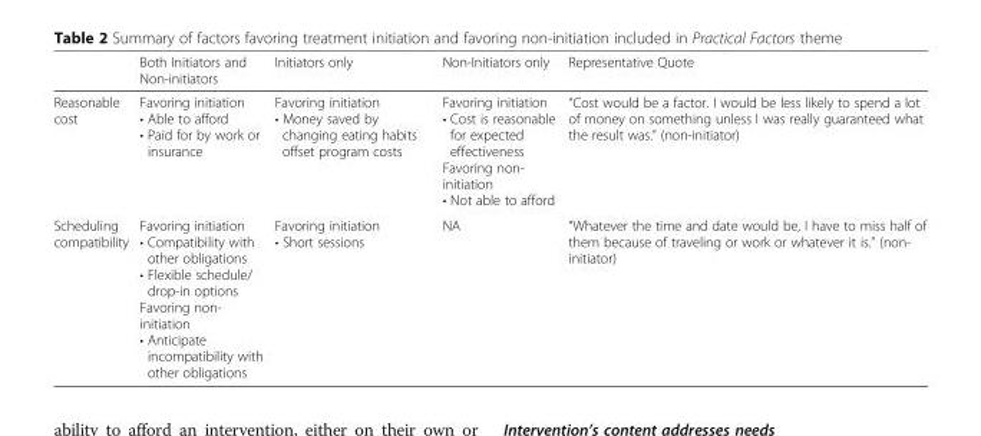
<table><thead><tr><td></td><td>Both Initiators and Non-initiators</td><td>Initiators only</td><td>Non-Initiators only</td><td>Representative Quote</td></tr></thead><tbody><tr><td>Reasonable cost</td><td>Favoring initiation • Able to afford • Paid for by work or insurance</td><td>Favoring initiation • Money saved by changing eating habits offset program costs</td><td>Favoring initiation • Cost is reasonable for expected effectiveness Favoring non- initiation • Not able to afford</td><td>“Cost would be a factor. I would be less likely to spend a lot of money on something unless I was really guaranteed what the result was.” (non-initiator)</td></tr><tr><td>Scheduling compatibility</td><td>Favoring initiation • Compatibility with other obligations • Flexible schedule/ drop-in options Favoring non- initiation • Anticipate incompatibility with other obligations</td><td>Favoring initiation • Short sessions</td><td>NA</td><td>“Whatever the time and date would be, I have to miss half of them because of traveling or work or whatever it is.” (non- initiator)</td></tr></tbody></table>